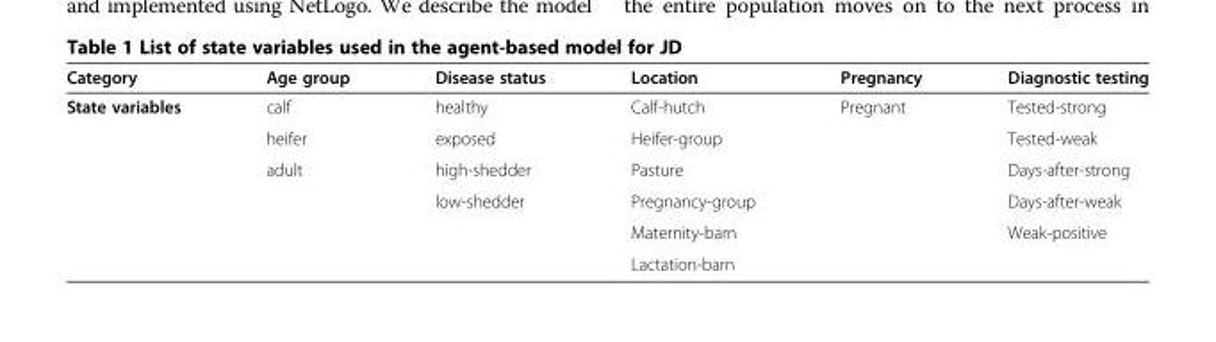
<table><thead><tr><td>Category</td><td>Age group</td><td>Disease status</td><td>Location</td><td>Pregnancy</td><td>Diagnostic testing</td></tr></thead><tbody><tr><td rowspan="6">State variables</td><td>calf</td><td>healthy</td><td>Calf-hutch</td><td rowspan="6">Pregnant</td><td>Tested-strong</td></tr><tr><td>heifer</td><td>exposed</td><td>Heifer-group</td><td>Tested-weak</td></tr><tr><td>adult</td><td>high-shedder</td><td>Pasture</td><td>Days-after-strong</td></tr><tr><td rowspan="3"></td><td rowspan="3">low-shedder</td><td>Pregnancy-group</td><td>Days-after-weak</td></tr><tr><td>Maternity-barn</td><td rowspan="2">Weak-positive</td></tr><tr><td>Lactation-barn</td></tr></tbody></table>